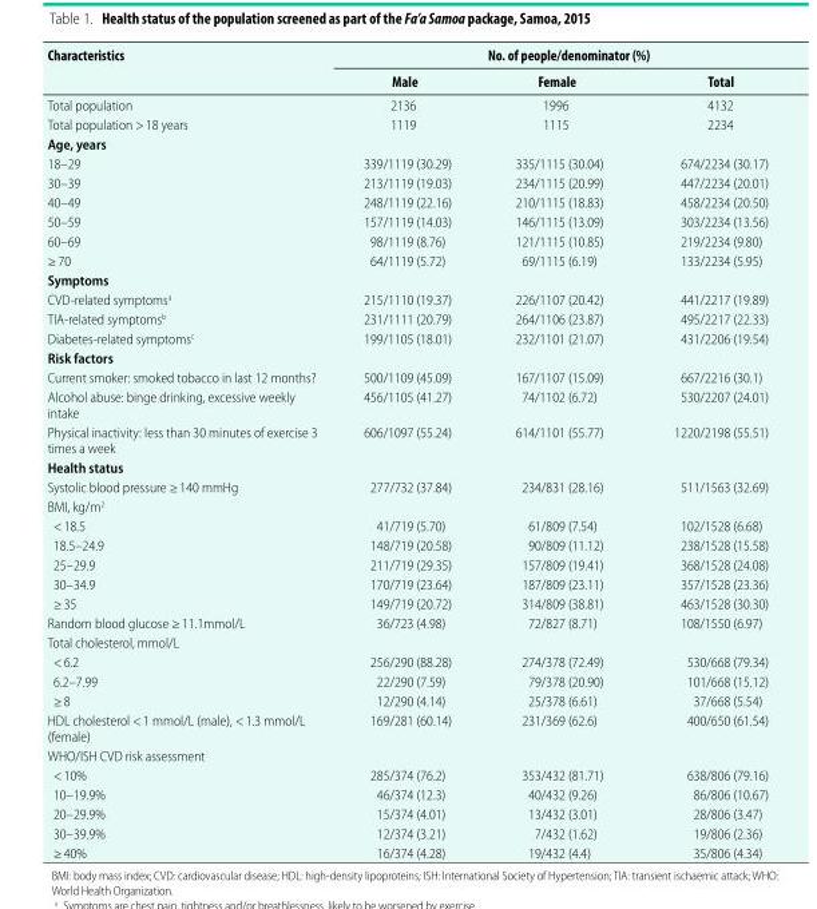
<table><thead><tr><td rowspan="2">Characteristics</td><td colspan="3">No. of people/denominator (%)</td></tr><tr><td>Male</td><td>Female</td><td>Total</td></tr></thead><tbody><tr><td>Total population</td><td>2136</td><td>1996</td><td>4132</td></tr><tr><td>Total population &gt; 18 years</td><td>1119</td><td>1115</td><td>2234</td></tr><tr><td colspan="4">Age, years</td></tr><tr><td>18–29</td><td>339/1119 (30.29)</td><td>335/1115 (30.04)</td><td>674/2234 (30.17)</td></tr><tr><td>30–39</td><td>213/1119 (19.03)</td><td>234/1115 (20.99)</td><td>447/2234 (20.01)</td></tr><tr><td>40–49</td><td>248/1119 (22.16)</td><td>210/1115 (18.83)</td><td>458/2234 (20.50)</td></tr><tr><td>50–59</td><td>157/1119 (14.03)</td><td>146/1115 (13.09)</td><td>303/2234 (13.56)</td></tr><tr><td>60–69</td><td>98/1119 (8.76)</td><td>121/1115 (10.85)</td><td>219/2234 (9.80)</td></tr><tr><td>≥ 70</td><td>64/1119 (5.72)</td><td>69/1115 (6.19)</td><td>133/2234 (5.95)</td></tr><tr><td colspan="4">Symptoms</td></tr><tr><td>CVD-related symptoms<sup>a</sup></td><td>215/1110 (19.37)</td><td>226/1107 (20.42)</td><td>441/2217 (19.89)</td></tr><tr><td>TIA-related symptoms<sup>b</sup></td><td>231/1111 (20.79)</td><td>264/1106 (23.87)</td><td>495/2217 (22.33)</td></tr><tr><td>Diabetes-related symptoms<sup>c</sup></td><td>199/1105 (18.01)</td><td>232/1101 (21.07)</td><td>431/2206 (19.54)</td></tr><tr><td colspan="4">Risk factors</td></tr><tr><td>Current smoker: smoked tobacco in last 12 months?</td><td>500/1109 (45.09)</td><td>167/1107 (15.09)</td><td>667/2216 (30.1)</td></tr><tr><td>Alcohol abuse: binge drinking, excessive weekly intake</td><td>456/1105 (41.27)</td><td>74/1102 (6.72)</td><td>530/2207 (24.01)</td></tr><tr><td>Physical inactivity: less than 30 minutes of exercise 3 times a week</td><td>606/1097 (55.24)</td><td>614/1101 (55.77)</td><td>1220/2198 (55.51)</td></tr><tr><td colspan="4">Health status</td></tr><tr><td>Systolic blood pressure ≥ 140 mmHg</td><td>277/732 (37.84)</td><td>234/831 (28.16)</td><td>511/1563 (32.69)</td></tr><tr><td colspan="4">BMI, kg/m<sup>2</sup></td></tr><tr><td>&lt; 18.5</td><td>41/719 (5.70)</td><td>61/809 (7.54)</td><td>102/1528 (6.68)</td></tr><tr><td>18.5–24.9</td><td>148/719 (20.58)</td><td>90/809 (11.12)</td><td>238/1528 (15.58)</td></tr><tr><td>25–29.9</td><td>211/719 (29.35)</td><td>157/809 (19.41)</td><td>368/1528 (24.08)</td></tr><tr><td>30–34.9</td><td>170/719 (23.64)</td><td>187/809 (23.11)</td><td>357/1528 (23.36)</td></tr><tr><td>≥ 35</td><td>149/719 (20.72)</td><td>314/809 (38.81)</td><td>463/1528 (30.30)</td></tr><tr><td>Random blood glucose ≥ 11.1mmol/L</td><td>36/723 (4.98)</td><td>72/827 (8.71)</td><td>108/1550 (6.97)</td></tr><tr><td colspan="4">Total cholesterol, mmol/L</td></tr><tr><td>&lt; 6.2</td><td>256/290 (88.28)</td><td>274/378 (72.49)</td><td>530/668 (79.34)</td></tr><tr><td>6.2–7.99</td><td>22/290 (7.59)</td><td>79/378 (20.90)</td><td>101/668 (15.12)</td></tr><tr><td>≥ 8</td><td>12/290 (4.14)</td><td>25/378 (6.61)</td><td>37/668 (5.54)</td></tr><tr><td>HDL cholesterol &lt; 1 mmol/L (male), &lt; 1.3 mmol/L (female)</td><td>169/281 (60.14)</td><td>231/369 (62.6)</td><td>400/650 (61.54)</td></tr><tr><td colspan="4">WHO/ISH CVD risk assessment</td></tr><tr><td>&lt; 10%</td><td>285/374 (76.2)</td><td>353/432 (81.71)</td><td>638/806 (79.16)</td></tr><tr><td>10–19.9%</td><td>46/374 (12.3)</td><td>40/432 (9.26)</td><td>86/806 (10.67)</td></tr><tr><td>20–29.9%</td><td>15/374 (4.01)</td><td>13/432 (3.01)</td><td>28/806 (3.47)</td></tr><tr><td>30–39.9%</td><td>12/374 (3.21)</td><td>7/432 (1.62)</td><td>19/806 (2.36)</td></tr><tr><td>≥ 40%</td><td>16/374 (4.28)</td><td>19/432 (4.4)</td><td>35/806 (4.34)</td></tr></tbody></table>